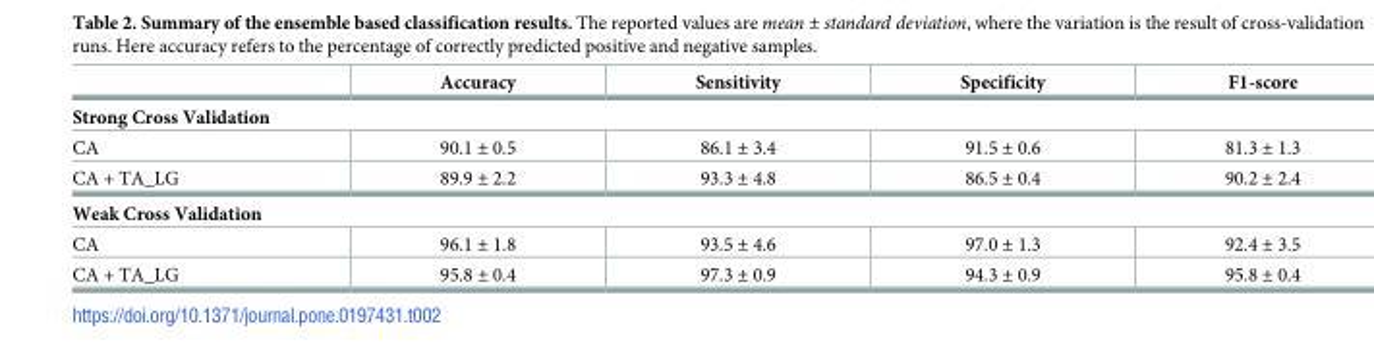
<table><thead><tr><td></td><td>Accuracy</td><td>Sensitivity</td><td>Specificity</td><td>F1-score</td></tr></thead><tbody><tr><td colspan="5">Strong Cross Validation</td></tr><tr><td>CA</td><td>90.1 ± 0.5</td><td>86.1 ± 3.4</td><td>91.5 ± 0.6</td><td>81.3 ± 1.3</td></tr><tr><td>CA + TA_LG</td><td>89.9 ± 2.2</td><td>93.3 ± 4.8</td><td>86.5 ± 0.4</td><td>90.2 ± 2.4</td></tr><tr><td colspan="5">Weak Cross Validation</td></tr><tr><td>CA</td><td>96.1 ± 1.8</td><td>93.5 ± 4.6</td><td>97.0 ± 1.3</td><td>92.4 ± 3.5</td></tr><tr><td>CA + TA_LG</td><td>95.8 ± 0.4</td><td>97.3 ± 0.9</td><td>94.3 ± 0.9</td><td>95.8 ± 0.4</td></tr></tbody></table>